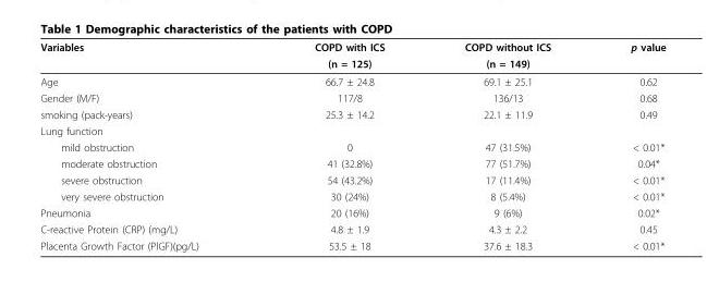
<table><thead><tr><td rowspan="2">Variables</td><td rowspan="2">COPD with ICS (n = 125)</td><td rowspan="2">COPD without ICS (n = 149)</td><td rowspan="2">p value</td></tr><tr></tr></thead><tbody><tr><td>Age</td><td>66.7 ± 24.8</td><td>69.1 ± 25.1</td><td>0.62</td></tr><tr><td>Gender (M/F)</td><td>117/8</td><td>136/13</td><td>0.68</td></tr><tr><td>smoking (pack-years)</td><td>25.3 ± 14.2</td><td>22.1 ± 11.9</td><td>0.49</td></tr><tr><td colspan="4">Lung function</td></tr><tr><td>mild obstruction</td><td>0</td><td>47 (31.5%)</td><td>&lt; 0.01*</td></tr><tr><td>moderate obstruction</td><td>41 (32.8%)</td><td>77 (51.7%)</td><td>0.04*</td></tr><tr><td>severe obstruction</td><td>54 (43.2%)</td><td>17 (11.4%)</td><td>&lt; 0.01*</td></tr><tr><td>very severe obstruction</td><td>30 (24%)</td><td>8 (5.4%)</td><td>&lt; 0.01*</td></tr><tr><td>Pneumonia</td><td>20 (16%)</td><td>9 (6%)</td><td>0.02*</td></tr><tr><td>C-reactive Protein (CRP) (mg/L)</td><td>4.8 ± 1.9</td><td>4.3 ± 2.2</td><td>0.45</td></tr><tr><td>Placenta Growth Factor (PlGF)(pg/L)</td><td>53.5 ± 18</td><td>37.6 ± 18.3</td><td>&lt; 0.01*</td></tr></tbody></table>